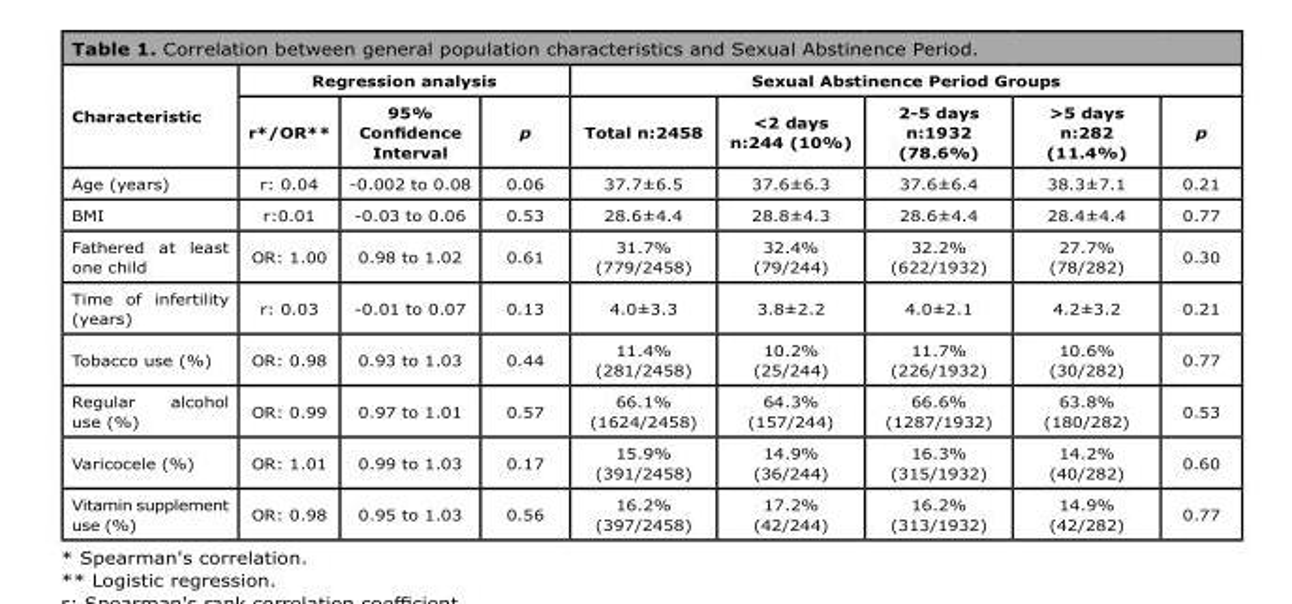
<table><thead><tr><td rowspan="2">Characteristic</td><td colspan="3">Regression analysis</td><td colspan="5">Sexual Abstinence Period Groups</td></tr><tr><td>r*/OR**</td><td>95% Confidence Interval</td><td>p</td><td>Total n:2458</td><td>&lt;2 days n:244 (10%)</td><td>2-5 days n:1932 (78.6%)</td><td>&gt;5 days n:282 (11.4%)</td><td>p</td></tr></thead><tbody><tr><td>Age (years)</td><td>r: 0.04</td><td>-0.002 to 0.08</td><td>0.06</td><td>37.7±6.5</td><td>37.6±6.3</td><td>37.6±6.4</td><td>38.3±7.1</td><td>0.21</td></tr><tr><td>BMI</td><td>r:0.01</td><td>-0.03 to 0.06</td><td>0.53</td><td>28.6±4.4</td><td>28.8±4.3</td><td>28.6±4.4</td><td>28.4±4.4</td><td>0.77</td></tr><tr><td>Fathered at least one child</td><td>OR: 1.00</td><td>0.98 to 1.02</td><td>0.61</td><td>31.7% (779/2458)</td><td>32.4% (79/244)</td><td>32.2% (622/1932)</td><td>27.7% (78/282)</td><td>0.30</td></tr><tr><td>Time of infertility (years)</td><td>r: 0.03</td><td>-0.01 to 0.07</td><td>0.13</td><td>4.0±3.3</td><td>3.8±2.2</td><td>4.0±2.1</td><td>4.2±3.2</td><td>0.21</td></tr><tr><td>Tobacco use (%)</td><td>OR: 0.98</td><td>0.93 to 1.03</td><td>0.44</td><td>11.4% (281/2458)</td><td>10.2% (25/244)</td><td>11.7% (226/1932)</td><td>10.6% (30/282)</td><td>0.77</td></tr><tr><td>Regular alcohol use (%)</td><td>OR: 0.99</td><td>0.97 to 1.01</td><td>0.57</td><td>66.1% (1624/2458)</td><td>64.3% (157/244)</td><td>66.6% (1287/1932)</td><td>63.8% (180/282)</td><td>0.53</td></tr><tr><td>Varicocele (%)</td><td>OR: 1.01</td><td>0.99 to 1.03</td><td>0.17</td><td>15.9% (391/2458)</td><td>14.9% (36/244)</td><td>16.3% (315/1932)</td><td>14.2% (40/282)</td><td>0.60</td></tr><tr><td>Vitamin supplement use (%)</td><td>OR: 0.98</td><td>0.95 to 1.03</td><td>0.56</td><td>16.2% (397/2458)</td><td>17.2% (42/244)</td><td>16.2% (313/1932)</td><td>14.9% (42/282)</td><td>0.77</td></tr></tbody></table>